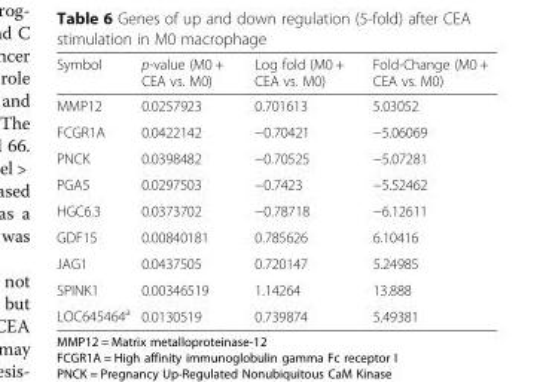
<table><thead><tr><td>Symbol</td><td>p-value (M0 + CEA vs. M0)</td><td>Log fold (M0 + CEA vs. M0)</td><td>Fold-Change (M0 + CEA vs. M0)</td></tr></thead><tbody><tr><td>MMP12</td><td>0.0257923</td><td>0.701613</td><td>5.03052</td></tr><tr><td>FCGR1A</td><td>0.0422142</td><td>−0.70421</td><td>−5.06069</td></tr><tr><td>PNCK</td><td>0.0398482</td><td>−0.70525</td><td>−5.07281</td></tr><tr><td>PGA5</td><td>0.0297503</td><td>−0.7423</td><td>−5.52462</td></tr><tr><td>HGC6.3</td><td>0.0373702</td><td>−0.78718</td><td>−6.12611</td></tr><tr><td>GDF15</td><td>0.00840181</td><td>0.785626</td><td>6.10416</td></tr><tr><td>JAG1</td><td>0.0437505</td><td>0.720147</td><td>5.24985</td></tr><tr><td>SPINK1</td><td>0.00346519</td><td>1.14264</td><td>13.888</td></tr><tr><td>LOC645464<sup>a</sup></td><td>0.0130519</td><td>0.739874</td><td>5.49381</td></tr></tbody></table>